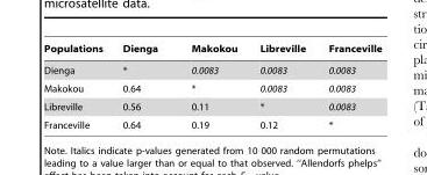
<table><thead><tr><td>Populations</td><td>Dienga</td><td>Makokou</td><td>Libreville</td><td>Franceville</td></tr></thead><tbody><tr><td>Dienga</td><td>*</td><td>0.0083</td><td>0.0083</td><td>0.0083</td></tr><tr><td>Makokou</td><td>0.64</td><td>*</td><td>0.0083</td><td>0.0083</td></tr><tr><td>Libreville</td><td>0.56</td><td>0.11</td><td>*</td><td>0.0083</td></tr><tr><td>Franceville</td><td>0.64</td><td>0.19</td><td>0.12</td><td>*</td></tr></tbody></table>